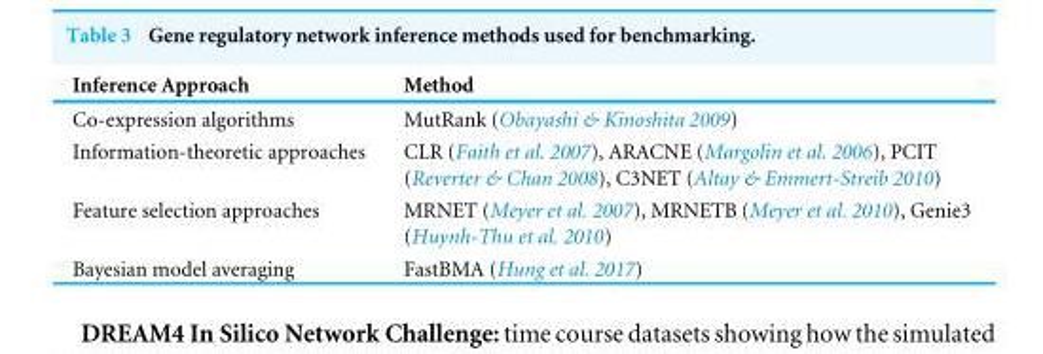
<table><thead><tr><td>Inference Approach</td><td>Method</td></tr></thead><tbody><tr><td>Co-expression algorithms</td><td>MutRank (Obayashi &amp; Kinoshita 2009)</td></tr><tr><td>Information-theoretic approaches</td><td>CLR (Faith et al. 2007), ARACNE (Margolin et al. 2006), PCIT (Reverter &amp; Chan 2008), C3NET (Altay &amp; Emmert-Streib 2010)</td></tr><tr><td>Feature selection approaches</td><td>MRNET (Meyer et al. 2007), MRNETB (Meyer et al. 2010), Genie3 (Huynh-Thu et al. 2010)</td></tr><tr><td>Bayesian model averaging</td><td>FastBMA (Hung et al. 2017)</td></tr></tbody></table>